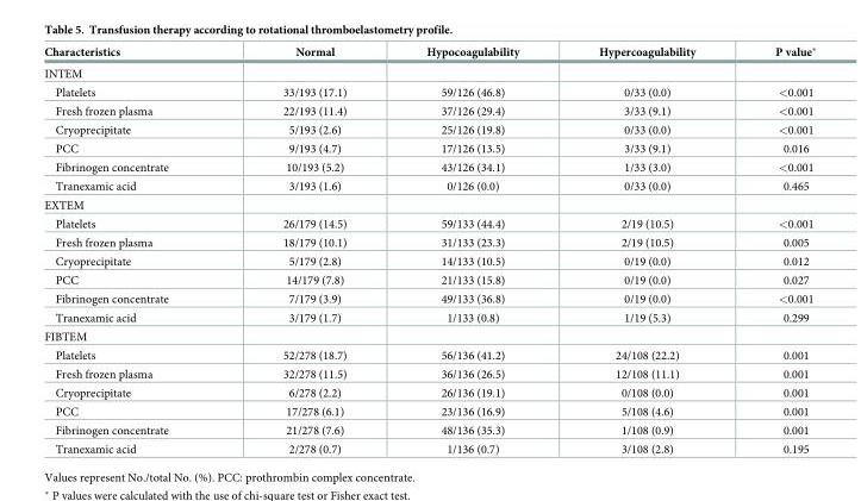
<table><thead><tr><td>Characteristics</td><td>Normal</td><td>Hypocoagulability</td><td>Hypercoagulability</td><td>P value*</td></tr></thead><tbody><tr><td colspan="5">INTEM</td></tr><tr><td>Platelets</td><td>33/193 (17.1)</td><td>59/126 (46.8)</td><td>0/33 (0.0)</td><td>&lt;0.001</td></tr><tr><td>Fresh frozen plasma</td><td>22/193 (11.4)</td><td>37/126 (29.4)</td><td>3/33 (9.1)</td><td>&lt;0.001</td></tr><tr><td>Cryoprecipitate</td><td>5/193 (2.6)</td><td>25/126 (19.8)</td><td>0/33 (0.0)</td><td>&lt;0.001</td></tr><tr><td>PCC</td><td>9/193 (4.7)</td><td>17/126 (13.5)</td><td>3/33 (9.1)</td><td>0.016</td></tr><tr><td>Fibrinogen concentrate</td><td>10/193 (5.2)</td><td>43/126 (34.1)</td><td>1/33 (3.0)</td><td>&lt;0.001</td></tr><tr><td>Tranexamic acid</td><td>3/193 (1.6)</td><td>0/126 (0.0)</td><td>0/33 (0.0)</td><td>0.465</td></tr><tr><td colspan="5">EXTEM</td></tr><tr><td>Platelets</td><td>26/179 (14.5)</td><td>59/133 (44.4)</td><td>2/19 (10.5)</td><td>&lt;0.001</td></tr><tr><td>Fresh frozen plasma</td><td>18/179 (10.1)</td><td>31/133 (23.3)</td><td>2/19 (10.5)</td><td>0.005</td></tr><tr><td>Cryoprecipitate</td><td>5/179 (2.8)</td><td>14/133 (10.5)</td><td>0/19 (0.0)</td><td>0.012</td></tr><tr><td>PCC</td><td>14/179 (7.8)</td><td>21/133 (15.8)</td><td>0/19 (0.0)</td><td>0.027</td></tr><tr><td>Fibrinogen concentrate</td><td>7/179 (3.9)</td><td>49/133 (36.8)</td><td>0/19 (0.0)</td><td>&lt;0.001</td></tr><tr><td>Tranexamic acid</td><td>3/179 (1.7)</td><td>1/133 (0.8)</td><td>1/19 (5.3)</td><td>0.299</td></tr><tr><td colspan="5">FIBTEM</td></tr><tr><td>Platelets</td><td>52/278 (18.7)</td><td>56/136 (41.2)</td><td>24/108 (22.2)</td><td>0.001</td></tr><tr><td>Fresh frozen plasma</td><td>32/278 (11.5)</td><td>36/136 (26.5)</td><td>12/108 (11.1)</td><td>0.001</td></tr><tr><td>Cryoprecipitate</td><td>6/278 (2.2)</td><td>26/136 (19.1)</td><td>0/108 (0.0)</td><td>0.001</td></tr><tr><td>PCC</td><td>17/278 (6.1)</td><td>23/136 (16.9)</td><td>5/108 (4.6)</td><td>0.001</td></tr><tr><td>Fibrinogen concentrate</td><td>21/278 (7.6)</td><td>48/136 (35.3)</td><td>1/108 (0.9)</td><td>0.001</td></tr><tr><td>Tranexamic acid</td><td>2/278 (0.7)</td><td>1/136 (0.7)</td><td>3/108 (2.8)</td><td>0.195</td></tr></tbody></table>